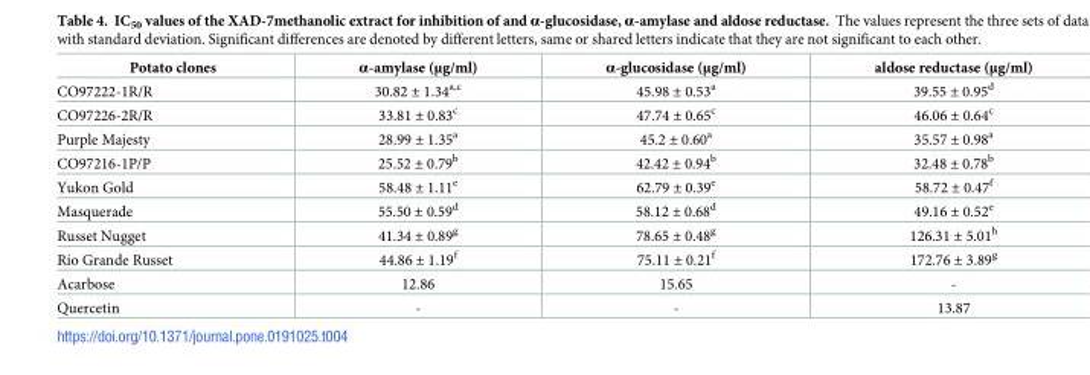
<table><thead><tr><td>Potato clones</td><td>α-amylase (μg/ml)</td><td>α-glucosidase (μg/ml)</td><td>aldose reductase (μg/ml)</td></tr></thead><tbody><tr><td>CO97222-1R/R</td><td>30.82 ± 1.34<sup>a,c</sup></td><td>45.98 ± 0.53<sup>a</sup></td><td>39.55 ± 0.95<sup>d</sup></td></tr><tr><td>CO97226-2R/R</td><td>33.81 ± 0.83<sup>c</sup></td><td>47.74 ± 0.65<sup>c</sup></td><td>46.06 ± 0.64<sup>c</sup></td></tr><tr><td>Purple Majesty</td><td>28.99 ± 1.35<sup>a</sup></td><td>45.2 ± 0.60<sup>a</sup></td><td>35.57 ± 0.98<sup>a</sup></td></tr><tr><td>CO97216-1P/P</td><td>25.52 ± 0.79<sup>b</sup></td><td>42.42 ± 0.94<sup>b</sup></td><td>32.48 ± 0.78<sup>b</sup></td></tr><tr><td>Yukon Gold</td><td>58.48 ± 1.11<sup>e</sup></td><td>62.79 ± 0.39<sup>e</sup></td><td>58.72 ± 0.47<sup>f</sup></td></tr><tr><td>Masquerade</td><td>55.50 ± 0.59<sup>d</sup></td><td>58.12 ± 0.68<sup>d</sup></td><td>49.16 ± 0.52<sup>e</sup></td></tr><tr><td>Russet Nugget</td><td>41.34 ± 0.89<sup>g</sup></td><td>78.65 ± 0.48<sup>g</sup></td><td>126.31 ± 5.01<sup>h</sup></td></tr><tr><td>Rio Grande Russet</td><td>44.86 ± 1.19<sup>f</sup></td><td>75.11 ± 0.21<sup>f</sup></td><td>172.76 ± 3.89<sup>g</sup></td></tr><tr><td>Acarbose</td><td>12.86</td><td>15.65</td><td>-</td></tr><tr><td>Quercetin</td><td>-</td><td>-</td><td>13.87</td></tr></tbody></table>